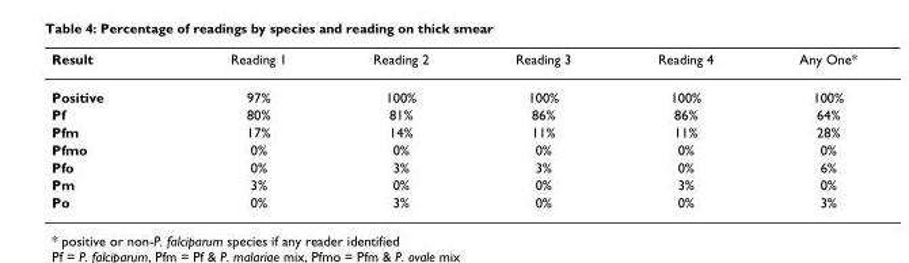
<table><thead><tr><td>Result</td><td>Reading 1</td><td>Reading 2</td><td>Reading 3</td><td>Reading 4</td><td>Any One*</td></tr></thead><tbody><tr><td>Positive</td><td>97%</td><td>100%</td><td>100%</td><td>100%</td><td>100%</td></tr><tr><td>Pf</td><td>80%</td><td>81%</td><td>86%</td><td>86%</td><td>64%</td></tr><tr><td>Pfm</td><td>17%</td><td>14%</td><td>11%</td><td>11%</td><td>28%</td></tr><tr><td>Pfmo</td><td>0%</td><td>0%</td><td>0%</td><td>0%</td><td>0%</td></tr><tr><td>Pfo</td><td>0%</td><td>3%</td><td>3%</td><td>0%</td><td>6%</td></tr><tr><td>Pm</td><td>3%</td><td>0%</td><td>0%</td><td>3%</td><td>0%</td></tr><tr><td>Po</td><td>0%</td><td>3%</td><td>0%</td><td>0%</td><td>3%</td></tr></tbody></table>